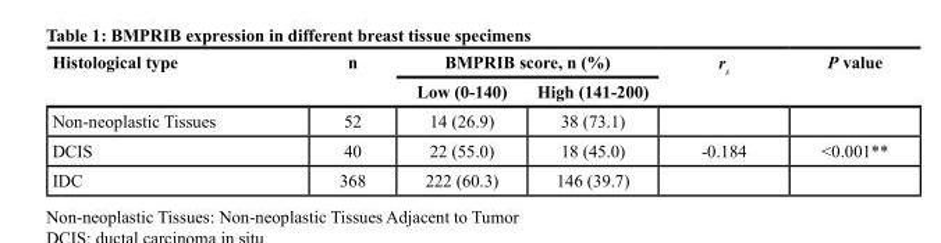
<table><thead><tr><td rowspan="2">Histological type</td><td rowspan="2">n</td><td colspan="2">BMPRIB score, n (%)</td><td rowspan="2">rs</td><td rowspan="2">P value</td></tr><tr><td>Low (0-140)</td><td>High (141-200)</td></tr></thead><tbody><tr><td>Non-neoplastic Tissues</td><td>52</td><td>14 (26.9)</td><td>38 (73.1)</td><td></td><td></td></tr><tr><td>DCIS</td><td>40</td><td>22 (55.0)</td><td>18 (45.0)</td><td>-0.184</td><td>&lt;0.001**</td></tr><tr><td>IDC</td><td>368</td><td>222 (60.3)</td><td>146 (39.7)</td><td></td><td></td></tr></tbody></table>